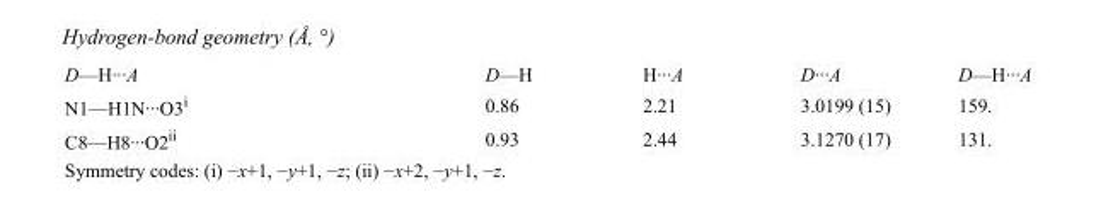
<table><tbody><tr><td>D—H···A</td><td>D—H</td><td>H···A</td><td>D···A</td><td>D—H···A</td></tr><tr><td>N1—H1N···O3<sup>i</sup></td><td>0.86</td><td>2.21</td><td>3.0199 (15)</td><td>159.</td></tr><tr><td>C8—H8···O2<sup>ii</sup></td><td>0.93</td><td>2.44</td><td>3.1270 (17)</td><td>131.</td></tr></tbody></table>